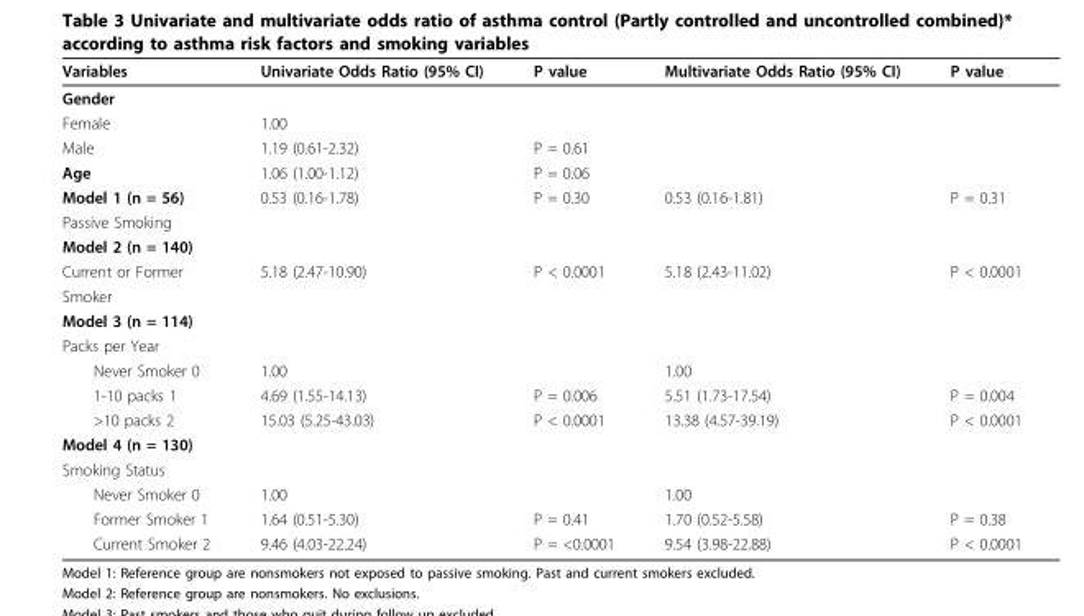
<table><tbody><tr><td>Variables</td><td>Univariate Odds Ratio (95% CI)</td><td>P value</td><td>Multivariate Odds Ratio (95% CI)</td><td>P value</td></tr><tr><td colspan="5">Gender</td></tr><tr><td>Female</td><td>1.00</td><td></td><td></td><td></td></tr><tr><td>Male</td><td>1.19 (0.61-2.32)</td><td>P = 0.61</td><td></td><td></td></tr><tr><td>Age</td><td>1.06 (1.00-1.12)</td><td>P = 0.06</td><td></td><td></td></tr><tr><td>Model 1 (n = 56)</td><td>0.53 (0.16-1.78)</td><td>P = 0.30</td><td>0.53 (0.16-1.81)</td><td>P = 0.31</td></tr><tr><td colspan="5">Passive Smoking</td></tr><tr><td colspan="5">Model 2 (n = 140)</td></tr><tr><td>Current or Former</td><td>5.18 (2.47-10.90)</td><td>P &lt; 0.0001</td><td>5.18 (2.43-11.02)</td><td>P &lt; 0.0001</td></tr><tr><td colspan="5">Smoker</td></tr><tr><td colspan="5">Model 3 (n = 114)</td></tr><tr><td colspan="5">Packs per Year</td></tr><tr><td>Never Smoker 0</td><td>1.00</td><td></td><td>1.00</td><td></td></tr><tr><td>1-10 packs 1</td><td>4.69 (1.55-14.13)</td><td>P = 0.006</td><td>5.51 (1.73-17.54)</td><td>P = 0.004</td></tr><tr><td>&gt;10 packs 2</td><td>15.03 (5.25-43.03)</td><td>P &lt; 0.0001</td><td>13.38 (4.57-39.19)</td><td>P &lt; 0.0001</td></tr><tr><td colspan="5">Model 4 (n = 130)</td></tr><tr><td colspan="5">Smoking Status</td></tr><tr><td>Never Smoker 0</td><td>1.00</td><td></td><td>1.00</td><td></td></tr><tr><td>Former Smoker 1</td><td>1.64 (0.51-5.30)</td><td>P = 0.41</td><td>1.70 (0.52-5.58)</td><td>P = 0.38</td></tr><tr><td>Current Smoker 2</td><td>9.46 (4.03-22.24)</td><td>P = &lt;0.0001</td><td>9.54 (3.98-22.88)</td><td>P &lt; 0.0001</td></tr></tbody></table>